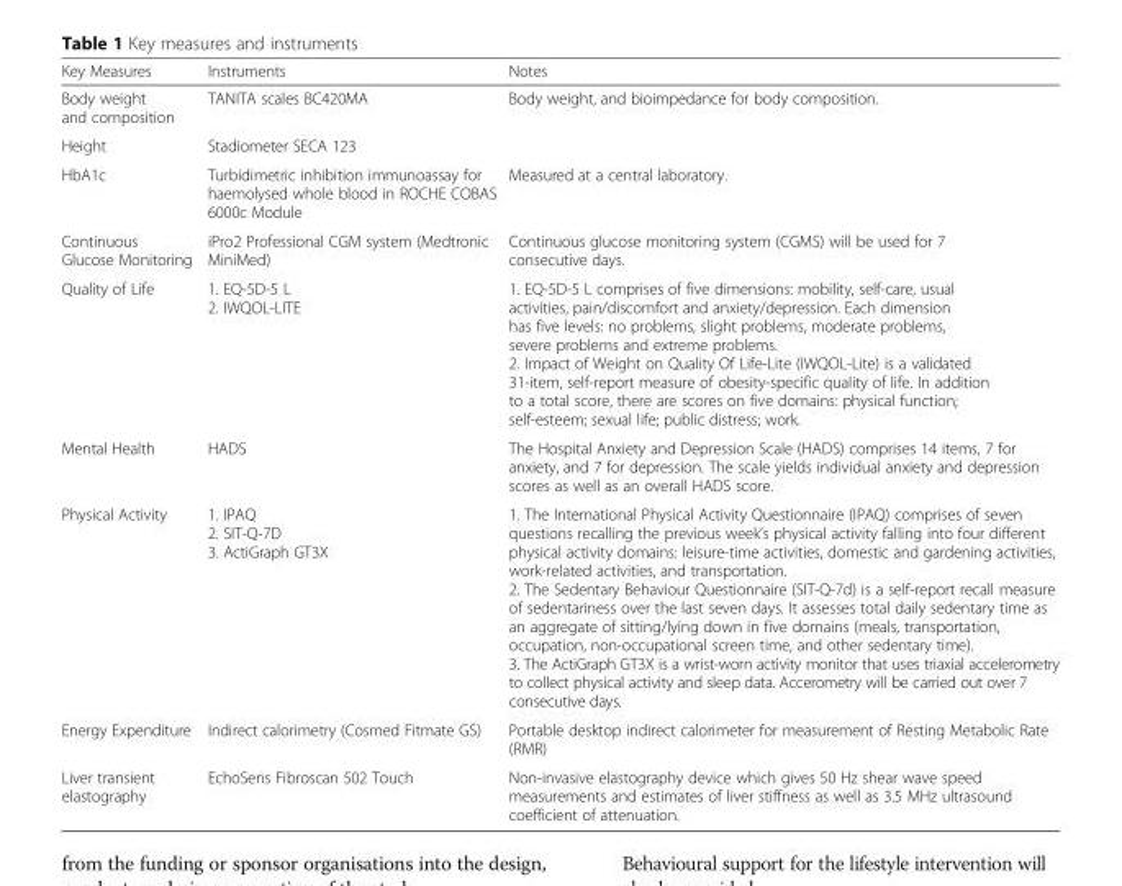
<table><thead><tr><td>Key Measures</td><td>Instruments</td><td>Notes</td></tr></thead><tbody><tr><td>Body weight and composition</td><td>TANITA scales BC420MA</td><td>Body weight, and bioimpedance for body composition.</td></tr><tr><td>Height</td><td>Stadiometer SECA 123</td><td></td></tr><tr><td>HbA1c</td><td>Turbidimetric inhibition immunoassay for haemolysed whole blood in ROCHE COBAS 6000c Module</td><td>Measured at a central laboratory.</td></tr><tr><td>Continuous Glucose Monitoring</td><td>iPro2 Professional CGM system (Medtronic MiniMed)</td><td>Continuous glucose monitoring system (CGMS) will be used for 7 consecutive days.</td></tr><tr><td>Quality of Life</td><td>1. EQ-5D-5 L 2. IWQOL-LITE</td><td>1. EQ-5D-5 L comprises of five dimensions: mobility, self-care, usual activities, pain/discomfort and anxiety/depression. Each dimension has five levels: no problems, slight problems, moderate problems, severe problems and extreme problems. 2. Impact of Weight on Quality Of Life-Lite (IWQOL-Lite) is a validated 31-item, self-report measure of obesity-specific quality of life. In addition to a total score, there are scores on five domains: physical function; self-esteem; sexual life; public distress; work.</td></tr><tr><td>Mental Health</td><td>HADS</td><td>The Hospital Anxiety and Depression Scale (HADS) comprises 14 items, 7 for anxiety, and 7 for depression. The scale yields individual anxiety and depression scores as well as an overall HADS score.</td></tr><tr><td>Physical Activity</td><td>1. IPAQ 2. SIT-Q-7D 3. ActiGraph GT3X</td><td>1. The International Physical Activity Questionnaire (IPAQ) comprises of seven questions recalling the previous week’s physical activity falling into four different physical activity domains: leisure-time activities, domestic and gardening activities, work-related activities, and transportation. 2. The Sedentary Behaviour Questionnaire (SIT-Q-7d) is a self-report recall measure of sedentariness over the last seven days. It assesses total daily sedentary time as an aggregate of sitting/lying down in five domains (meals, transportation, occupation, non-occupational screen time, and other sedentary time). 3. The ActiGraph GT3X is a wrist-worn activity monitor that uses triaxial accelerometry to collect physical activity and sleep data. Accerometry will be carried out over 7 consecutive days.</td></tr><tr><td>Energy Expenditure</td><td>Indirect calorimetry (Cosmed Fitmate GS)</td><td>Portable desktop indirect calorimeter for measurement of Resting Metabolic Rate (RMR)</td></tr><tr><td>Liver transient elastography</td><td>EchoSens Fibroscan 502 Touch</td><td>Non-invasive elastography device which gives 50 Hz shear wave speed measurements and estimates of liver stiffness as well as 3.5 MHz ultrasound coefficient of attenuation.</td></tr></tbody></table>